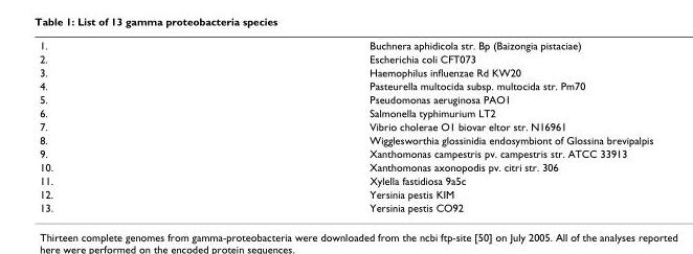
<table><tbody><tr><td>1.</td><td>Buchnera aphidicola str. Bp (Baizongia pistaciae)</td></tr><tr><td>2.</td><td>Escherichia coli CFT073</td></tr><tr><td>3.</td><td>Haemophilus influenzae Rd KW20</td></tr><tr><td>4.</td><td>Pasteurella multocida subsp. multocida str. Pm70</td></tr><tr><td>5.</td><td>Pseudomonas aeruginosa PAO1</td></tr><tr><td>6.</td><td>Salmonella typhimurium LT2</td></tr><tr><td>7.</td><td>Vibrio cholerae O1 biovar eltor str. N16961</td></tr><tr><td>8.</td><td>Wigglesworthia glossinidia endosymbiont of Glossina brevipalpis</td></tr><tr><td>9.</td><td>Xanthomonas campestris pv. campestris str. ATCC 33913</td></tr><tr><td>10.</td><td>Xanthomonas axonopodis pv. citri str. 306</td></tr><tr><td>11.</td><td>Xylella fastidiosa 9a5c</td></tr><tr><td>12.</td><td>Yersinia pestis KIM</td></tr><tr><td>13.</td><td>Yersinia pestis CO92</td></tr></tbody></table>